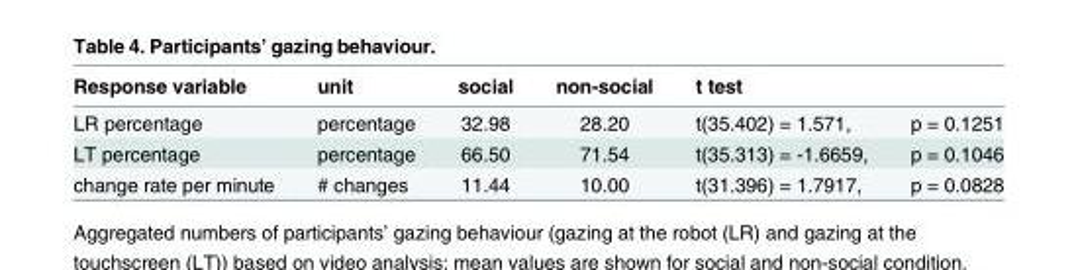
<table><thead><tr><td>Response variable</td><td>unit</td><td>social</td><td>non-social</td><td>t test</td><td></td></tr></thead><tbody><tr><td>LR percentage</td><td>percentage</td><td>32.98</td><td>28.20</td><td>t(35.402) = 1.571,</td><td>p = 0.1251</td></tr><tr><td>LT percentage</td><td>percentage</td><td>66.50</td><td>71.54</td><td>t(35.313) = -1.6659,</td><td>p = 0.1046</td></tr><tr><td>change rate per minute</td><td># changes</td><td>11.44</td><td>10.00</td><td>t(31.396) = 1.7917,</td><td>p = 0.0828</td></tr></tbody></table>